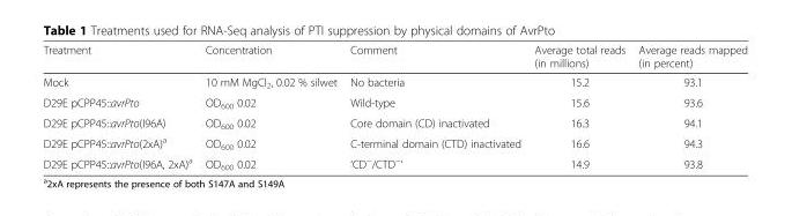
<table><thead><tr><td>Treatment</td><td>Concentration</td><td>Comment</td><td>Average total reads (in millions)</td><td>Average reads mapped (in percent)</td></tr></thead><tbody><tr><td>Mock</td><td>10 mM MgCl<sub>2</sub>, 0.02 % silwet</td><td>No bacteria</td><td>15.2</td><td>93.1</td></tr><tr><td>D29E pCPP45::avrPto</td><td>OD<sub>600</sub> 0.02</td><td>Wild-type</td><td>15.6</td><td>93.6</td></tr><tr><td>D29E pCPP45::avrPto(I96A)</td><td>OD<sub>600</sub> 0.02</td><td>Core domain (CD) inactivated</td><td>16.3</td><td>94.1</td></tr><tr><td>D29E pCPP45::avrPto(2xA)<sup>a</sup></td><td>OD<sub>600</sub> 0.02</td><td>C-terminal domain (CTD) inactivated</td><td>16.6</td><td>94.3</td></tr><tr><td>D29E pCPP45::avrPto(I96A, 2xA)<sup>a</sup></td><td>OD<sub>600</sub> 0.02</td><td>‘CD<sup>−</sup>/CTD<sup>−</sup>‘</td><td>14.9</td><td>93.8</td></tr></tbody></table>